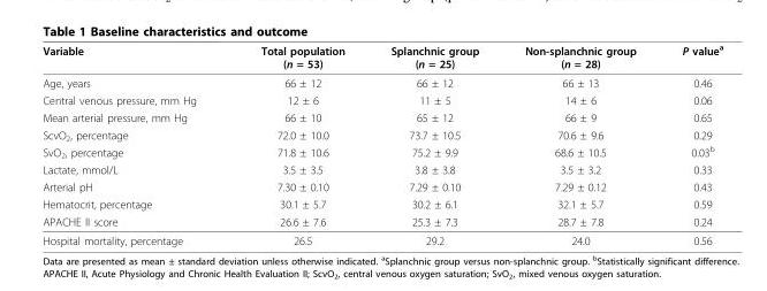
<table><thead><tr><td>Variable</td><td>Total population (n = 53)</td><td>Splanchnic group (n = 25)</td><td>Non-splanchnic group (n = 28)</td><td>P value<sup>a</sup></td></tr></thead><tbody><tr><td>Age, years</td><td>66 ± 12</td><td>66 ± 12</td><td>66 ± 13</td><td>0.46</td></tr><tr><td>Central venous pressure, mm Hg</td><td>12 ± 6</td><td>11 ± 5</td><td>14 ± 6</td><td>0.06</td></tr><tr><td>Mean arterial pressure, mm Hg</td><td>66 ± 10</td><td>65 ± 12</td><td>66 ± 9</td><td>0.65</td></tr><tr><td>ScvO<sub>2</sub>, percentage</td><td>72.0 ± 10.0</td><td>73.7 ± 10.5</td><td>70.6 ± 9.6</td><td>0.29</td></tr><tr><td>SvO<sub>2</sub>, percentage</td><td>71.8 ± 10.6</td><td>75.2 ± 9.9</td><td>68.6 ± 10.5</td><td>0.03<sup>b</sup></td></tr><tr><td>Lactate, mmol/L</td><td>3.5 ± 3.5</td><td>3.8 ± 3.8</td><td>3.5 ± 3.2</td><td>0.33</td></tr><tr><td>Arterial pH</td><td>7.30 ± 0.10</td><td>7.29 ± 0.10</td><td>7.29 ± 0.12</td><td>0.43</td></tr><tr><td>Hematocrit, percentage</td><td>30.1 ± 5.7</td><td>30.2 ± 6.1</td><td>32.1 ± 5.7</td><td>0.59</td></tr><tr><td>APACHE II score</td><td>26.6 ± 7.6</td><td>25.3 ± 7.3</td><td>28.7 ± 7.8</td><td>0.24</td></tr><tr><td>Hospital mortality, percentage</td><td>26.5</td><td>29.2</td><td>24.0</td><td>0.56</td></tr></tbody></table>